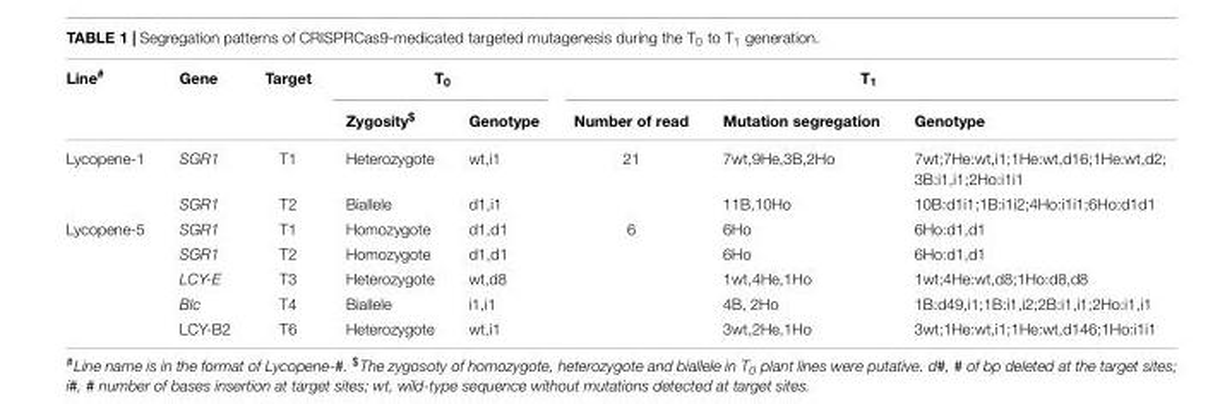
<table><thead><tr><td rowspan="2">Line<sup>#</sup></td><td rowspan="2">Gene</td><td rowspan="2">Target</td><td colspan="2">T<sub>0</sub></td><td colspan="3">T<sub>1</sub></td></tr><tr><td>Zygosity<sup>$</sup></td><td>Genotype</td><td>Number of read</td><td>Mutation segregation</td><td>Genotype</td></tr></thead><tbody><tr><td rowspan="2">Lycopene-1</td><td>SGR1</td><td>T1</td><td>Heterozygote</td><td>wt,i1</td><td>21</td><td>7wt,9He,3B,2Ho</td><td>7wt;7He:wt,i1;1He:wt,d16;1He:wt,d2; 3B:i1,i1;2Ho:i1i1</td></tr><tr><td>SGR1</td><td>T2</td><td>Biallele</td><td>d1,i1</td><td></td><td>11B,10Ho</td><td>10B:d1i1;1B:i1i2;4Ho:i1i1;6Ho:d1d1</td></tr><tr><td rowspan="5">Lycopene-5</td><td>SGR1</td><td>T1</td><td>Homozygote</td><td>d1,d1</td><td>6</td><td>6Ho</td><td>6Ho:d1,d1</td></tr><tr><td>SGR1</td><td>T2</td><td>Homozygote</td><td>d1,d1</td><td></td><td>6Ho</td><td>6Ho:d1,d1</td></tr><tr><td>LCY-E</td><td>T3</td><td>Heterozygote</td><td>wt,d8</td><td></td><td>1wt,4He,1Ho</td><td>1wt;4He:wt,d8;1Ho:d8,d8</td></tr><tr><td>Blc</td><td>T4</td><td>Biallele</td><td>i1,i1</td><td></td><td>4B, 2Ho</td><td>1B:d49,i1;1B:i1,i2;2B:i1,i1;2Ho:i1,i1</td></tr><tr><td>LCY-B2</td><td>T6</td><td>Heterozygote</td><td>wt,i1</td><td></td><td>3wt,2He,1Ho</td><td>3wt;1He:wt,i1;1He:wt,d146;1Ho:i1i1</td></tr></tbody></table>